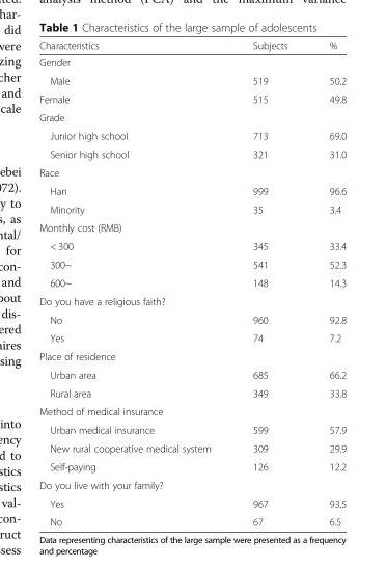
<table><thead><tr><td>Characteristics</td><td>Subjects</td><td>%</td></tr></thead><tbody><tr><td colspan="3">Gender</td></tr><tr><td>Male</td><td>519</td><td>50.2</td></tr><tr><td>Female</td><td>515</td><td>49.8</td></tr><tr><td colspan="3">Grade</td></tr><tr><td>Junior high school</td><td>713</td><td>69.0</td></tr><tr><td>Senior high school</td><td>321</td><td>31.0</td></tr><tr><td colspan="3">Race</td></tr><tr><td>Han</td><td>999</td><td>96.6</td></tr><tr><td>Minority</td><td>35</td><td>3.4</td></tr><tr><td colspan="3">Monthly cost (RMB)</td></tr><tr><td>&lt; 300</td><td>345</td><td>33.4</td></tr><tr><td>300~</td><td>541</td><td>52.3</td></tr><tr><td>600~</td><td>148</td><td>14.3</td></tr><tr><td colspan="3">Do you have a religious faith?</td></tr><tr><td>No</td><td>960</td><td>92.8</td></tr><tr><td>Yes</td><td>74</td><td>7.2</td></tr><tr><td colspan="3">Place of residence</td></tr><tr><td>Urban area</td><td>685</td><td>66.2</td></tr><tr><td>Rural area</td><td>349</td><td>33.8</td></tr><tr><td colspan="3">Method of medical insurance</td></tr><tr><td>Urban medical insurance</td><td>599</td><td>57.9</td></tr><tr><td>New rural cooperative medical system</td><td>309</td><td>29.9</td></tr><tr><td>Self-paying</td><td>126</td><td>12.2</td></tr><tr><td colspan="3">Do you live with your family?</td></tr><tr><td>Yes</td><td>967</td><td>93.5</td></tr><tr><td>No</td><td>67</td><td>6.5</td></tr></tbody></table>